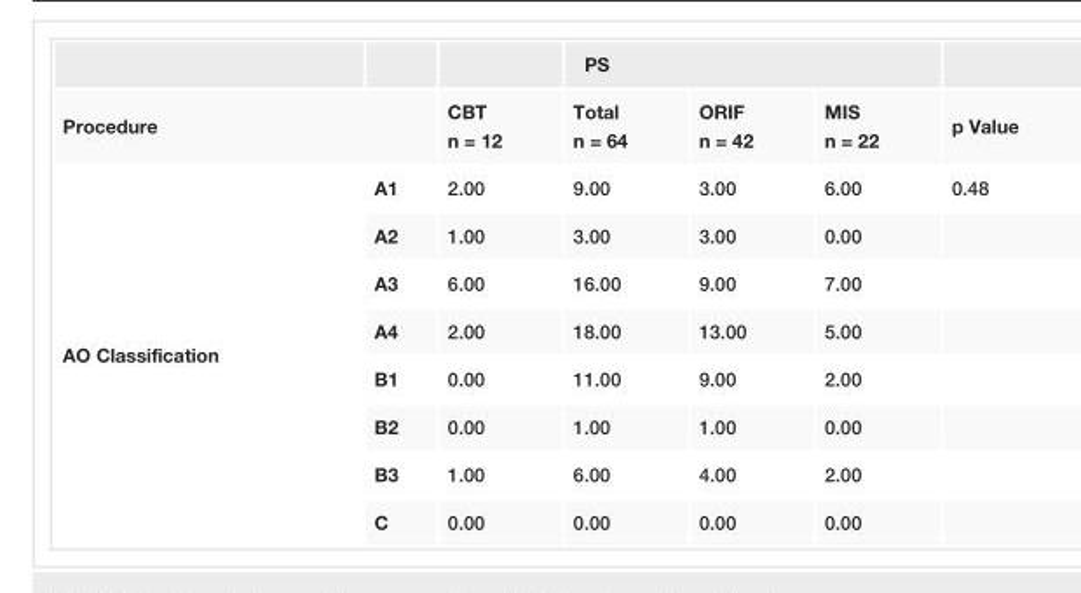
<table><thead><tr><td></td><td></td><td rowspan="2">CBT n = 12</td><td colspan="3">PS</td><td rowspan="2">p Value</td></tr><tr><td colspan="2">Procedure</td><td>Total n = 64</td><td>ORIF n = 42</td><td>MIS n = 22</td></tr></thead><tbody><tr><td rowspan="8">AO Classification</td><td>A1</td><td>2.00</td><td>9.00</td><td>3.00</td><td>6.00</td><td>0.48</td></tr><tr><td>A2</td><td>1.00</td><td>3.00</td><td>3.00</td><td>0.00</td><td></td></tr><tr><td>A3</td><td>6.00</td><td>16.00</td><td>9.00</td><td>7.00</td><td></td></tr><tr><td>A4</td><td>2.00</td><td>18.00</td><td>13.00</td><td>5.00</td><td></td></tr><tr><td>B1</td><td>0.00</td><td>11.00</td><td>9.00</td><td>2.00</td><td></td></tr><tr><td>B2</td><td>0.00</td><td>1.00</td><td>1.00</td><td>0.00</td><td></td></tr><tr><td>B3</td><td>1.00</td><td>6.00</td><td>4.00</td><td>2.00</td><td></td></tr><tr><td>C</td><td>0.00</td><td>0.00</td><td>0.00</td><td>0.00</td><td></td></tr></tbody></table>